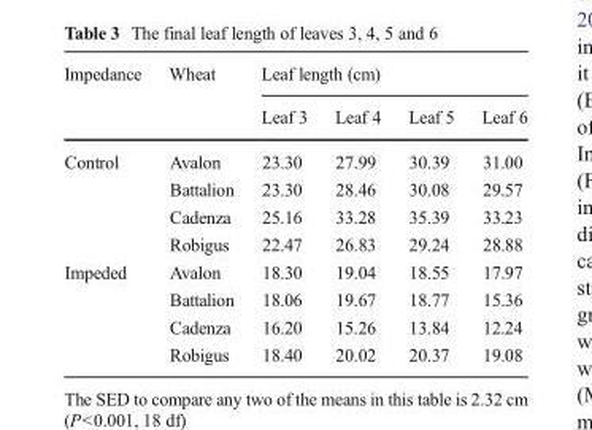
<table><thead><tr><td rowspan="2">Impedance</td><td rowspan="2">Wheat</td><td colspan="4">Leaf length (cm)</td></tr><tr><td>Leaf 3</td><td>Leaf 4</td><td>Leaf 5</td><td>Leaf 6</td></tr></thead><tbody><tr><td rowspan="4">Control</td><td>Avalon</td><td>23.30</td><td>27.99</td><td>30.39</td><td>31.00</td></tr><tr><td>Battalion</td><td>23.30</td><td>28.46</td><td>30.08</td><td>29.57</td></tr><tr><td>Cadenza</td><td>25.16</td><td>33.28</td><td>35.39</td><td>33.23</td></tr><tr><td>Robigus</td><td>22.47</td><td>26.83</td><td>29.24</td><td>28.88</td></tr><tr><td rowspan="4">Impeded</td><td>Avalon</td><td>18.30</td><td>19.04</td><td>18.55</td><td>17.97</td></tr><tr><td>Battalion</td><td>18.06</td><td>19.67</td><td>18.77</td><td>15.36</td></tr><tr><td>Cadenza</td><td>16.20</td><td>15.26</td><td>13.84</td><td>12.24</td></tr><tr><td>Robigus</td><td>18.40</td><td>20.02</td><td>20.37</td><td>19.08</td></tr></tbody></table>